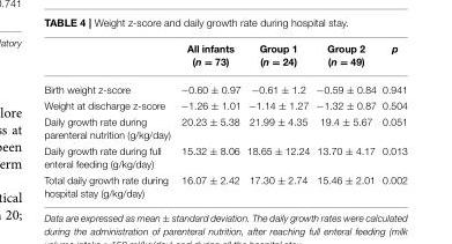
<table><thead><tr><td></td><td>All infants (n = 73)</td><td>Group 1 (n = 24)</td><td>Group 2 (n = 49)</td><td>p</td></tr></thead><tbody><tr><td>Birth weight z-score</td><td>−0.60 ± 0.97</td><td>−0.61 ± 1.2</td><td>−0.59 ± 0.84</td><td>0.941</td></tr><tr><td>Weight at discharge z-score</td><td>−1.26 ± 1.01</td><td>−1.14 ± 1.27</td><td>−1.32 ± 0.87</td><td>0.504</td></tr><tr><td>Daily growth rate during parenteral nutrition (g/kg/day)</td><td>20.23 ± 5.38</td><td>21.99 ± 4.35</td><td>19.4 ± 5.67</td><td>0.051</td></tr><tr><td>Daily growth rate during full enteral feeding (g/kg/day)</td><td>15.32 ± 8.06</td><td>18.65 ± 12.24</td><td>13.70 ± 4.17</td><td>0.013</td></tr><tr><td>Total daily growth rate during hospital stay (g/kg/day)</td><td>16.07 ± 2.42</td><td>17.30 ± 2.74</td><td>15.46 ± 2.01</td><td>0.002</td></tr></tbody></table>